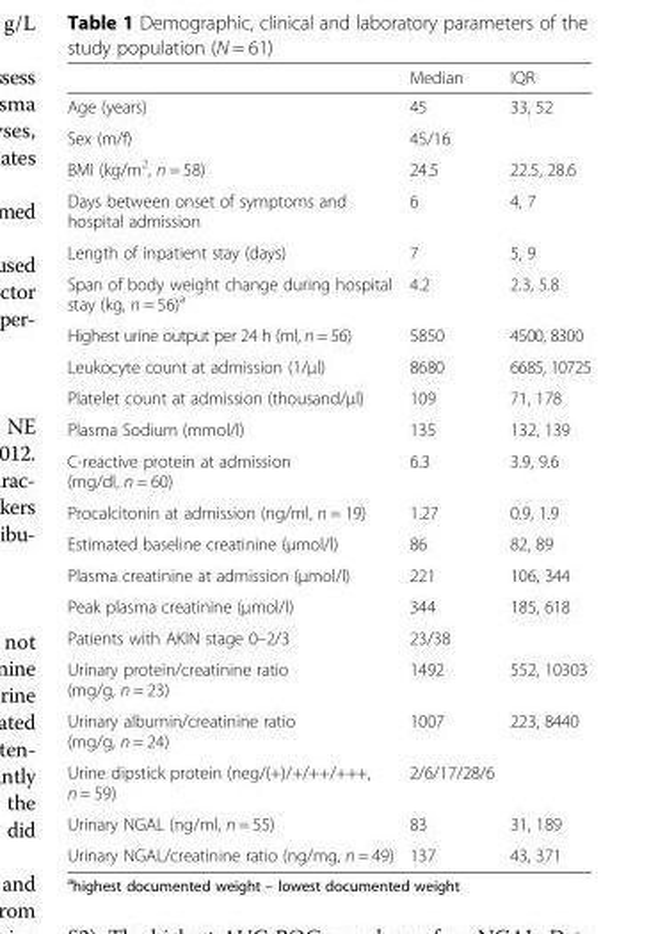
<table><thead><tr><td></td><td>Median</td><td>IQR</td></tr></thead><tbody><tr><td>Age (years)</td><td>45</td><td>33, 52</td></tr><tr><td>Sex (m/f)</td><td>45/16</td><td></td></tr><tr><td>BMI (kg/m<sup>2</sup>, n = 58)</td><td>24.5</td><td>22.5, 28.6</td></tr><tr><td>Days between onset of symptoms and hospital admission</td><td>6</td><td>4, 7</td></tr><tr><td>Length of inpatient stay (days)</td><td>7</td><td>5, 9</td></tr><tr><td>Span of body weight change during hospital stay (kg, n = 56)<sup>a</sup></td><td>4.2</td><td>2.3, 5.8</td></tr><tr><td>Highest urine output per 24 h (ml, n = 56)</td><td>5850</td><td>4500, 8300</td></tr><tr><td>Leukocyte count at admission (1/μl)</td><td>8680</td><td>6685, 10725</td></tr><tr><td>Platelet count at admission (thousand/μl)</td><td>109</td><td>71, 178</td></tr><tr><td>Plasma Sodium (mmol/l)</td><td>135</td><td>132, 139</td></tr><tr><td>C-reactive protein at admission (mg/dl, n = 60)</td><td>6.3</td><td>3.9, 9.6</td></tr><tr><td>Procalcitonin at admission (ng/ml, n = 19)</td><td>1.27</td><td>0.9, 1.9</td></tr><tr><td>Estimated baseline creatinine (μmol/l)</td><td>86</td><td>82, 89</td></tr><tr><td>Plasma creatinine at admission (μmol/l)</td><td>221</td><td>106, 344</td></tr><tr><td>Peak plasma creatinine (μmol/l)</td><td>344</td><td>185, 618</td></tr><tr><td>Patients with AKIN stage 0–2/3</td><td>23/38</td><td></td></tr><tr><td>Urinary protein/creatinine ratio (mg/g, n = 23)</td><td>1492</td><td>552, 10303</td></tr><tr><td>Urinary albumin/creatinine ratio (mg/g, n = 24)</td><td>1007</td><td>223, 8440</td></tr><tr><td>Urine dipstick protein (neg/(+)/+/++/+++, n = 59)</td><td>2/6/17/28/6</td><td></td></tr><tr><td>Urinary NGAL (ng/ml, n = 55)</td><td>83</td><td>31, 189</td></tr><tr><td>Urinary NGAL/creatinine ratio (ng/mg, n = 49)</td><td>137</td><td>43, 371</td></tr></tbody></table>